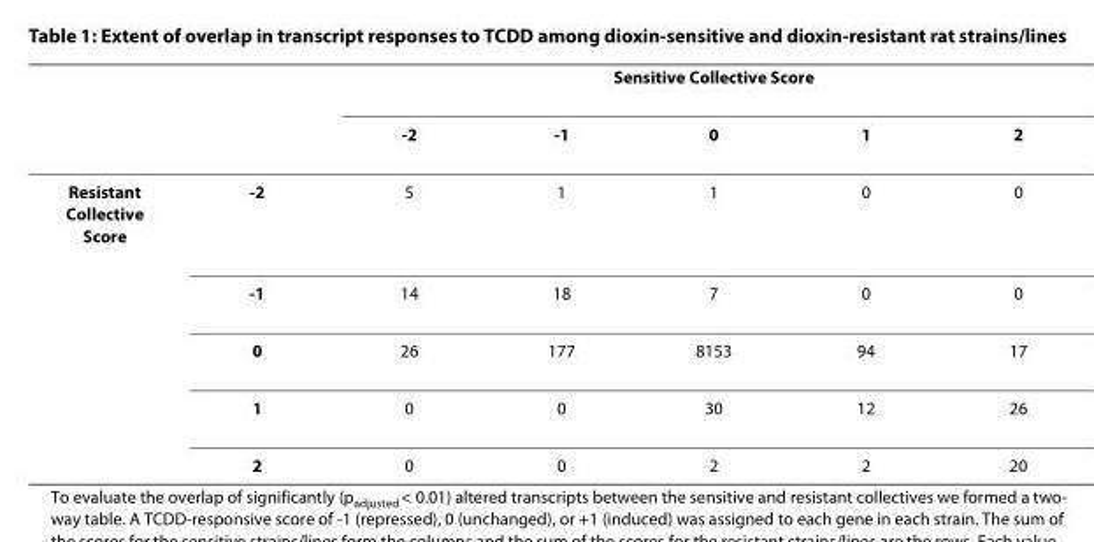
<table><thead><tr><td rowspan="2"></td><td rowspan="2"></td><td colspan="5">Sensitive Collective Score</td></tr><tr><td>-2</td><td>-1</td><td>0</td><td>1</td><td>2</td></tr></thead><tbody><tr><td rowspan="5">Resistant Collective Score</td><td>-2</td><td>5</td><td>1</td><td>1</td><td>0</td><td>0</td></tr><tr><td>-1</td><td>14</td><td>18</td><td>7</td><td>0</td><td>0</td></tr><tr><td>0</td><td>26</td><td>177</td><td>8153</td><td>94</td><td>17</td></tr><tr><td>1</td><td>0</td><td>0</td><td>30</td><td>12</td><td>26</td></tr><tr><td>2</td><td>0</td><td>0</td><td>2</td><td>2</td><td>20</td></tr></tbody></table>